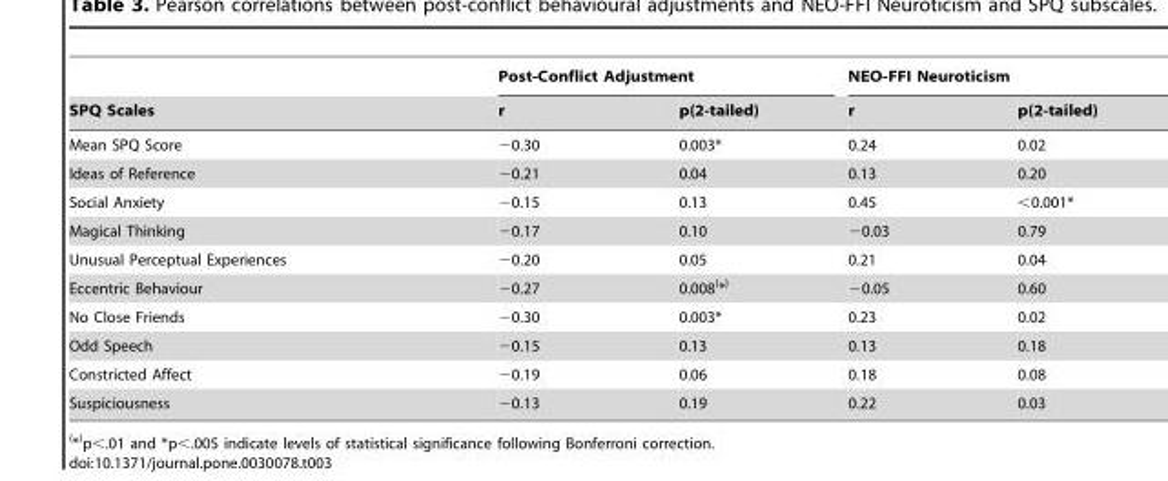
<table><thead><tr><td rowspan="2">SPQ Scales</td><td colspan="2">Post-Conflict Adjustment</td><td colspan="2">NEO-FFI Neuroticism</td></tr><tr><td>r</td><td>p(2-tailed)</td><td>r</td><td>p(2-tailed)</td></tr></thead><tbody><tr><td>Mean SPQ Score</td><td>−0.30</td><td>0.003*</td><td>0.24</td><td>0.02</td></tr><tr><td>Ideas of Reference</td><td>−0.21</td><td>0.04</td><td>0.13</td><td>0.20</td></tr><tr><td>Social Anxiety</td><td>−0.15</td><td>0.13</td><td>0.45</td><td>&lt;0.001*</td></tr><tr><td>Magical Thinking</td><td>−0.17</td><td>0.10</td><td>−0.03</td><td>0.79</td></tr><tr><td>Unusual Perceptual Experiences</td><td>−0.20</td><td>0.05</td><td>0.21</td><td>0.04</td></tr><tr><td>Eccentric Behaviour</td><td>−0.27</td><td>0.008(*<sup>)</sup></td><td>−0.05</td><td>0.60</td></tr><tr><td>No Close Friends</td><td>−0.30</td><td>0.003*</td><td>0.23</td><td>0.02</td></tr><tr><td>Odd Speech</td><td>−0.15</td><td>0.13</td><td>0.13</td><td>0.18</td></tr><tr><td>Constricted Affect</td><td>−0.19</td><td>0.06</td><td>0.18</td><td>0.08</td></tr><tr><td>Suspiciousness</td><td>−0.13</td><td>0.19</td><td>0.22</td><td>0.03</td></tr></tbody></table>